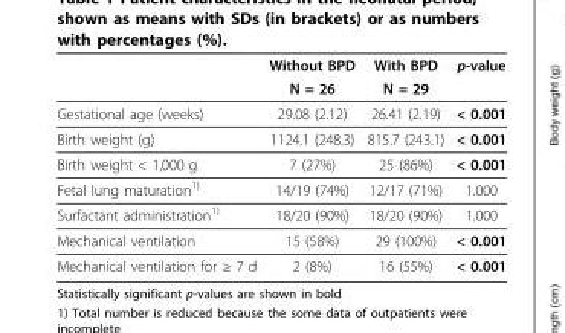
<table><thead><tr><td rowspan="2"></td><td rowspan="2">Without BPD N = 26</td><td rowspan="2">With BPD N = 29</td><td rowspan="2">p-value</td></tr><tr></tr></thead><tbody><tr><td>Gestational age (weeks)</td><td>29.08 (2.12)</td><td>26.41 (2.19)</td><td>&lt; 0.001</td></tr><tr><td>Birth weight (g)</td><td>1124.1 (248.3)</td><td>815.7 (243.1)</td><td>&lt; 0.001</td></tr><tr><td>Birth weight &lt; 1,000 g</td><td>7 (27%)</td><td>25 (86%)</td><td>&lt; 0.001</td></tr><tr><td>Fetal lung maturation<sup>1)</sup></td><td>14/19 (74%)</td><td>12/17 (71%)</td><td>1.000</td></tr><tr><td>Surfactant administration<sup>1)</sup></td><td>18/20 (90%)</td><td>18/20 (90%)</td><td>1.000</td></tr><tr><td>Mechanical ventilation</td><td>15 (58%)</td><td>29 (100%)</td><td>&lt; 0.001</td></tr><tr><td>Mechanical ventilation for ≥ 7 d</td><td>2 (8%)</td><td>16 (55%)</td><td>&lt; 0.001</td></tr></tbody></table>